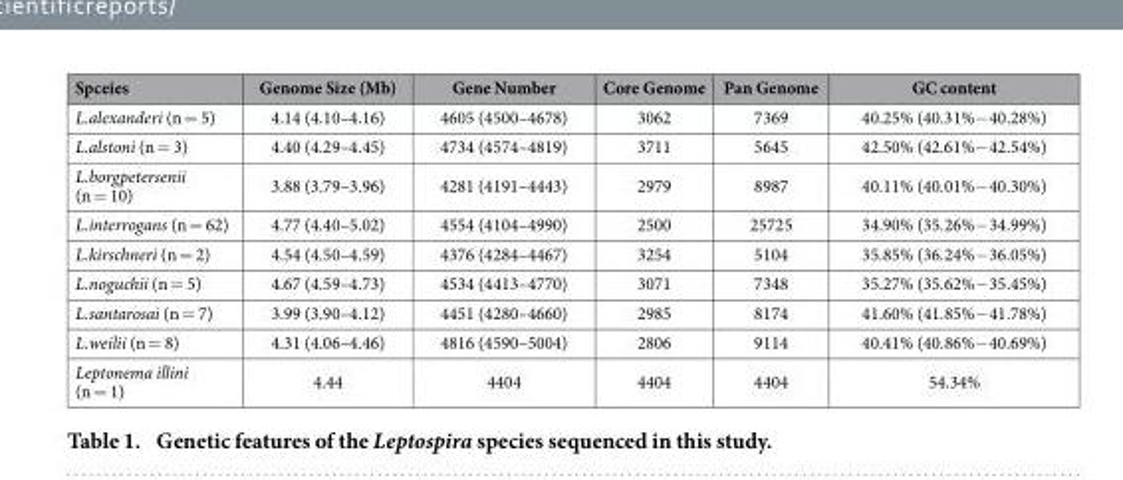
<table><thead><tr><td>Spceies</td><td>Genome Size (Mb)</td><td>Gene Number</td><td>Core Genome</td><td>Pan Genome</td><td>GC content</td></tr></thead><tbody><tr><td>L.alexanderi (n = 5)</td><td>4.14 (4.10–4.16)</td><td>4605 (4500–4678)</td><td>3062</td><td>7369</td><td>40.25% (40.31%− 40.28%)</td></tr><tr><td>L.alstoni (n = 3)</td><td>4.40 (4.29–4.45)</td><td>4734 (4574–4819)</td><td>3711</td><td>5645</td><td>42.50% (42.61%− 42.54%)</td></tr><tr><td>L.borgpetersenii (n = 10)</td><td>3.88 (3.79–3.96)</td><td>4281 (4191–4443)</td><td>2979</td><td>8987</td><td>40.11% (40.01%− 40.30%)</td></tr><tr><td>L.interrogans (n = 62)</td><td>4.77 (4.40–5.02)</td><td>4554 (4104–4990)</td><td>2500</td><td>25725</td><td>34.90% (35.26%− 34.99%)</td></tr><tr><td>L.kirschneri (n = 2)</td><td>4.54 (4.50–4.59)</td><td>4376 (4284–4467)</td><td>3254</td><td>5104</td><td>35.85% (36.24%− 36.05%)</td></tr><tr><td>L.noguchii (n = 5)</td><td>4.67 (4.59–4.73)</td><td>4534 (4413–4770)</td><td>3071</td><td>7348</td><td>35.27% (35.62%− 35.45%)</td></tr><tr><td>L.santarosai (n = 7)</td><td>3.99 (3.90–4.12)</td><td>4451 (4280–4660)</td><td>2985</td><td>8174</td><td>41.60% (41.85%− 41.78%)</td></tr><tr><td>L.weilii (n = 8)</td><td>4.31 (4.06–4.46)</td><td>4816 (4590–5004)</td><td>2806</td><td>9114</td><td>40.41% (40.86%− 40.69%)</td></tr><tr><td>Leptonema illini (n = 1)</td><td>4.44</td><td>4404</td><td>4404</td><td>4404</td><td>54.34%</td></tr></tbody></table>